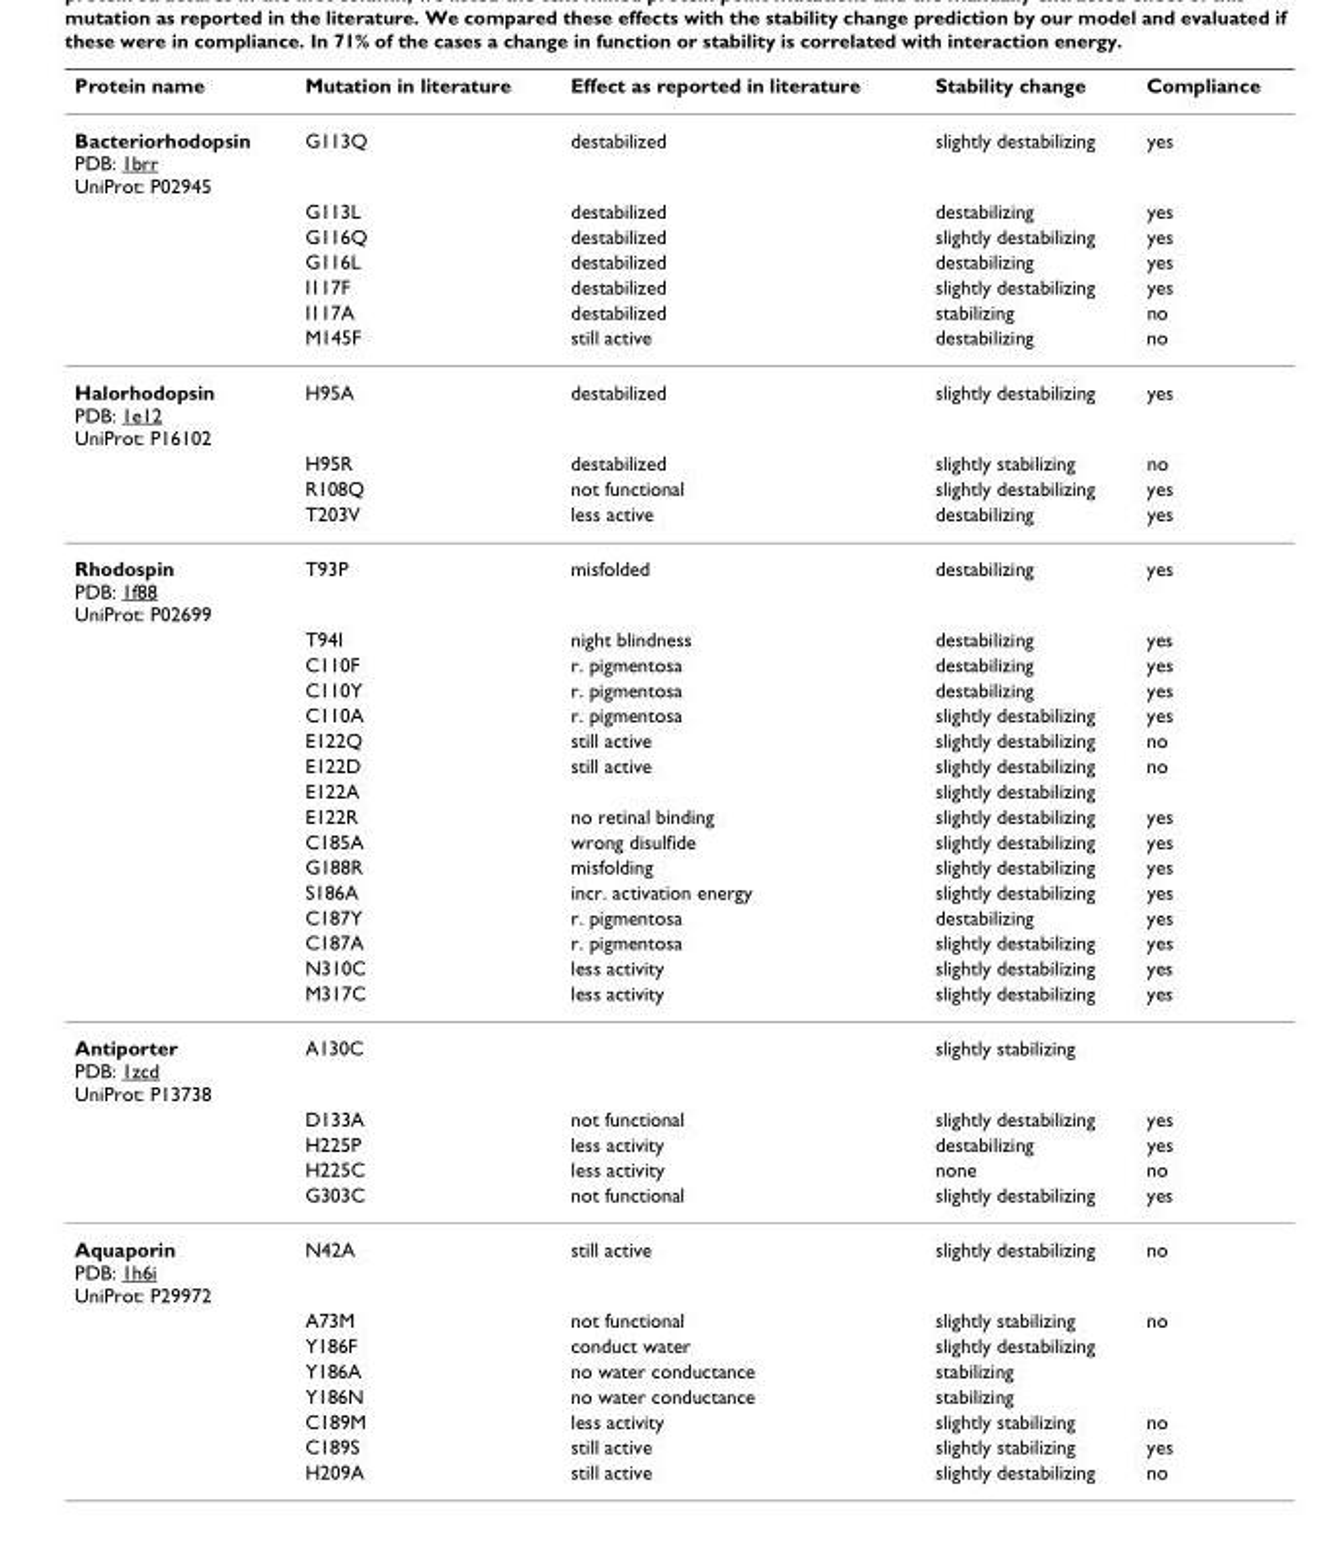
<table><thead><tr><td>Protein name</td><td>Mutation in literature</td><td>Effect as reported in literature</td><td>Stability change</td><td>Compliance</td></tr></thead><tbody><tr><td rowspan="7">Bacteriorhodopsin PDB: 1brr UniProt: P02945</td><td>G113Q</td><td>destabilized</td><td>slightly destabilizing</td><td>yes</td></tr><tr><td>G113L</td><td>destabilized</td><td>destabilizing</td><td>yes</td></tr><tr><td>G116Q</td><td>destabilized</td><td>slightly destabilizing</td><td>yes</td></tr><tr><td>G116L</td><td>destabilized</td><td>destabilizing</td><td>yes</td></tr><tr><td>I117F</td><td>destabilized</td><td>slightly destabilizing</td><td>yes</td></tr><tr><td>I117A</td><td>destabilized</td><td>stabilizing</td><td>no</td></tr><tr><td>M145F</td><td>still active</td><td>destabilizing</td><td>no</td></tr><tr><td rowspan="4">Halorhodopsin PDB: 1e12 UniProt: P16102</td><td>H95A</td><td>destabilized</td><td>slightly destabilizing</td><td>yes</td></tr><tr><td>H95R</td><td>destabilized</td><td>slightly stabilizing</td><td>no</td></tr><tr><td>R108Q</td><td>not functional</td><td>slightly destabilizing</td><td>yes</td></tr><tr><td>T203V</td><td>less active</td><td>destabilizing</td><td>yes</td></tr><tr><td rowspan="16">Rhodospin PDB: 1f88 UniProt: P02699</td><td>T93P</td><td>misfolded</td><td>destabilizing</td><td>yes</td></tr><tr><td>T94I</td><td>night blindness</td><td>destabilizing</td><td>yes</td></tr><tr><td>C110F</td><td>r. pigmentosa</td><td>destabilizing</td><td>yes</td></tr><tr><td>C110Y</td><td>r. pigmentosa</td><td>destabilizing</td><td>yes</td></tr><tr><td>C110A</td><td>r. pigmentosa</td><td>slightly destabilizing</td><td>yes</td></tr><tr><td>E122Q</td><td>still active</td><td>slightly destabilizing</td><td>no</td></tr><tr><td>E122D</td><td>still active</td><td>slightly destabilizing</td><td>no</td></tr><tr><td>E122A</td><td></td><td>slightly destabilizing</td><td></td></tr><tr><td>E122R</td><td>no retinal binding</td><td>slightly destabilizing</td><td>yes</td></tr><tr><td>C185A</td><td>wrong disulfide</td><td>slightly destabilizing</td><td>yes</td></tr><tr><td>G188R</td><td>misfolding</td><td>slightly destabilizing</td><td>yes</td></tr><tr><td>S186A</td><td>incr. activation energy</td><td>slightly destabilizing</td><td>yes</td></tr><tr><td>C187Y</td><td>r. pigmentosa</td><td>destabilizing</td><td>yes</td></tr><tr><td>C187A</td><td>r. pigmentosa</td><td>slightly destabilizing</td><td>yes</td></tr><tr><td>N310C</td><td>less activity</td><td>slightly destabilizing</td><td>yes</td></tr><tr><td>M317C</td><td>less activity</td><td>slightly destabilizing</td><td>yes</td></tr><tr><td rowspan="5">Antiporter PDB: 1zcd UniProt: P13738</td><td>A130C</td><td></td><td>slightly stabilizing</td><td></td></tr><tr><td>D133A</td><td>not functional</td><td>slightly destabilizing</td><td>yes</td></tr><tr><td>H225P</td><td>less activity</td><td>destabilizing</td><td>yes</td></tr><tr><td>H225C</td><td>less activity</td><td>none</td><td>no</td></tr><tr><td>G303C</td><td>not functional</td><td>slightly destabilizing</td><td>yes</td></tr><tr><td rowspan="8">Aquaporin PDB: 1h6i UniProt: P29972</td><td>N42A</td><td>still active</td><td>slightly destabilizing</td><td>no</td></tr><tr><td>A73M</td><td>not functional</td><td>slightly stabilizing</td><td>no</td></tr><tr><td>Y186F</td><td>conduct water</td><td>slightly destabilizing</td><td></td></tr><tr><td>Y186A</td><td>no water conductance</td><td>stabilizing</td><td></td></tr><tr><td>Y186N</td><td>no water conductance</td><td>stabilizing</td><td></td></tr><tr><td>C189M</td><td>less activity</td><td>slightly stabilizing</td><td>no</td></tr><tr><td>C189S</td><td>still active</td><td>slightly stabilizing</td><td>yes</td></tr><tr><td>H209A</td><td>still active</td><td>slightly destabilizing</td><td>no</td></tr></tbody></table>